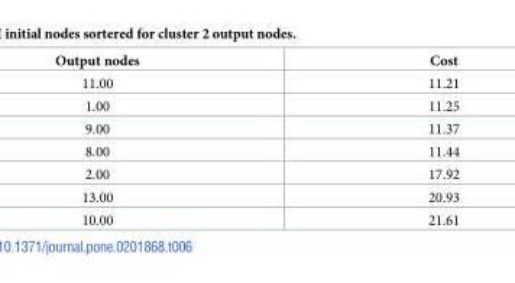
<table><thead><tr><td>Output nodes</td><td>Cost</td></tr></thead><tbody><tr><td>11.00</td><td>11.21</td></tr><tr><td>1.00</td><td>11.25</td></tr><tr><td>9.00</td><td>11.37</td></tr><tr><td>8.00</td><td>11.44</td></tr><tr><td>2.00</td><td>17.92</td></tr><tr><td>13.00</td><td>20.93</td></tr><tr><td>10.00</td><td>21.61</td></tr></tbody></table>